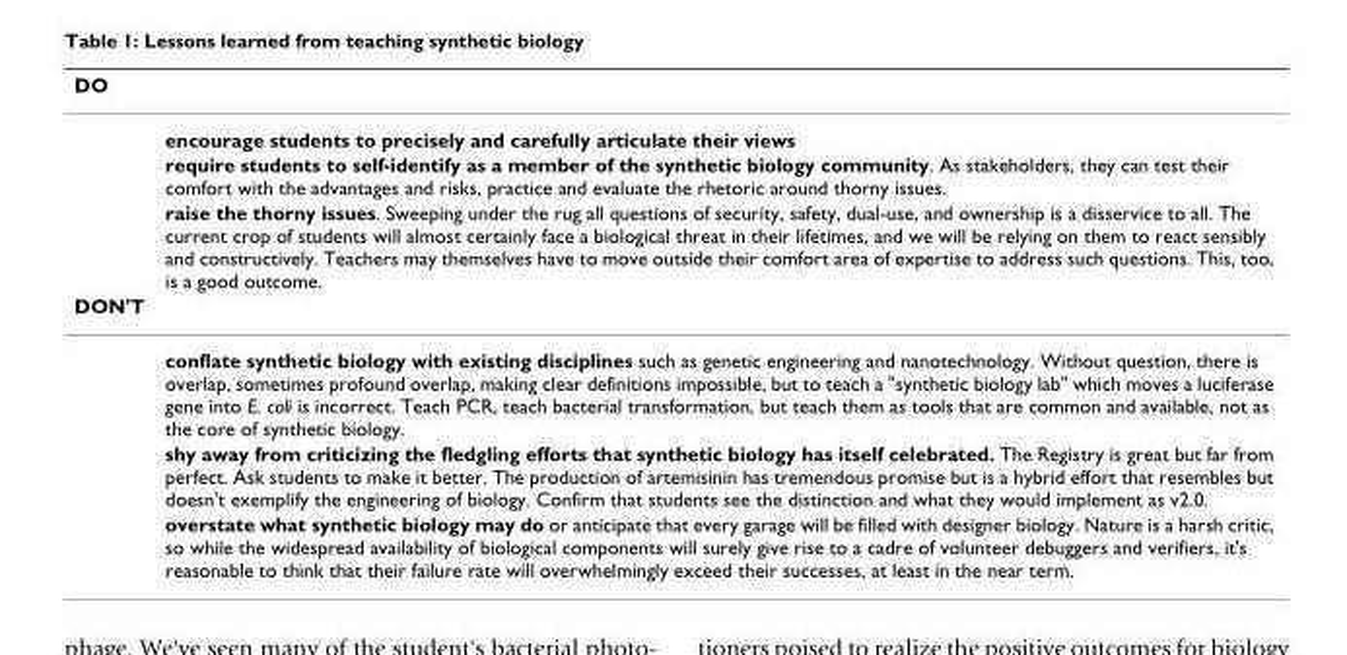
<table><thead><tr><td>DO</td><td></td></tr></thead><tbody><tr><td></td><td>encourage students to precisely and carefully articulate their views</td></tr><tr><td></td><td>require students to self-identify as a member of the synthetic biology community. As stakeholders, they can test their comfort with the advantages and risks, practice and evaluate the rhetoric around thorny issues.</td></tr><tr><td></td><td>raise the thorny issues. Sweeping under the rug all questions of security, safety, dual-use, and ownership is a disservice to all. The current crop of students will almost certainly face a biological threat in their lifetimes, and we will be relying on them to react sensibly and constructively. Teachers may themselves have to move outside their comfort area of expertise to address such questions. This, too, is a good outcome.</td></tr><tr><td colspan="2">DON&#x27;T</td></tr><tr><td></td><td>conflate synthetic biology with existing disciplines such as genetic engineering and nanotechnology. Without question, there is overlap, sometimes profound overlap, making clear definitions impossible, but to teach a &quot;synthetic biology lab&quot; which moves a luciferase gene into E. coli is incorrect. Teach PCR, teach bacterial transformation, but teach them as tools that are common and available, not as the core of synthetic biology.</td></tr><tr><td></td><td>shy away from criticizing the fledgling efforts that synthetic biology has itself celebrated. The Registry is great but far from perfect. Ask students to make it better. The production of artemisinin has tremendous promise but is a hybrid effort that resembles but doesn&#x27;t exemplify the engineering of biology. Confirm that students see the distinction and what they would implement as v2.0.</td></tr><tr><td></td><td>overstate what synthetic biology may do or anticipate that every garage will be filled with designer biology. Nature is a harsh critic, so while the widespread availability of biological components will surely give rise to a cadre of volunteer debuggers and verifiers, it&#x27;s reasonable to think that their failure rate will overwhelmingly exceed their successes, at least in the near term.</td></tr></tbody></table>